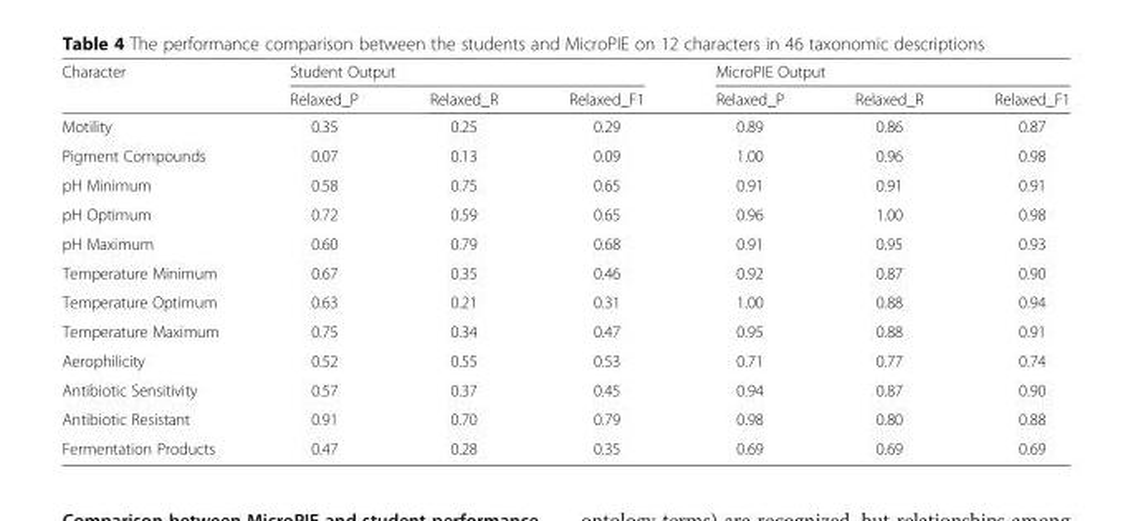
<table><thead><tr><td rowspan="2">Character</td><td colspan="3">Student Output</td><td colspan="3">MicroPIE Output</td></tr><tr><td>Relaxed_P</td><td>Relaxed_R</td><td>Relaxed_F1</td><td>Relaxed_P</td><td>Relaxed_R</td><td>Relaxed_F1</td></tr></thead><tbody><tr><td>Motility</td><td>0.35</td><td>0.25</td><td>0.29</td><td>0.89</td><td>0.86</td><td>0.87</td></tr><tr><td>Pigment Compounds</td><td>0.07</td><td>0.13</td><td>0.09</td><td>1.00</td><td>0.96</td><td>0.98</td></tr><tr><td>pH Minimum</td><td>0.58</td><td>0.75</td><td>0.65</td><td>0.91</td><td>0.91</td><td>0.91</td></tr><tr><td>pH Optimum</td><td>0.72</td><td>0.59</td><td>0.65</td><td>0.96</td><td>1.00</td><td>0.98</td></tr><tr><td>pH Maximum</td><td>0.60</td><td>0.79</td><td>0.68</td><td>0.91</td><td>0.95</td><td>0.93</td></tr><tr><td>Temperature Minimum</td><td>0.67</td><td>0.35</td><td>0.46</td><td>0.92</td><td>0.87</td><td>0.90</td></tr><tr><td>Temperature Optimum</td><td>0.63</td><td>0.21</td><td>0.31</td><td>1.00</td><td>0.88</td><td>0.94</td></tr><tr><td>Temperature Maximum</td><td>0.75</td><td>0.34</td><td>0.47</td><td>0.95</td><td>0.88</td><td>0.91</td></tr><tr><td>Aerophilicity</td><td>0.52</td><td>0.55</td><td>0.53</td><td>0.71</td><td>0.77</td><td>0.74</td></tr><tr><td>Antibiotic Sensitivity</td><td>0.57</td><td>0.37</td><td>0.45</td><td>0.94</td><td>0.87</td><td>0.90</td></tr><tr><td>Antibiotic Resistant</td><td>0.91</td><td>0.70</td><td>0.79</td><td>0.98</td><td>0.80</td><td>0.88</td></tr><tr><td>Fermentation Products</td><td>0.47</td><td>0.28</td><td>0.35</td><td>0.69</td><td>0.69</td><td>0.69</td></tr></tbody></table>